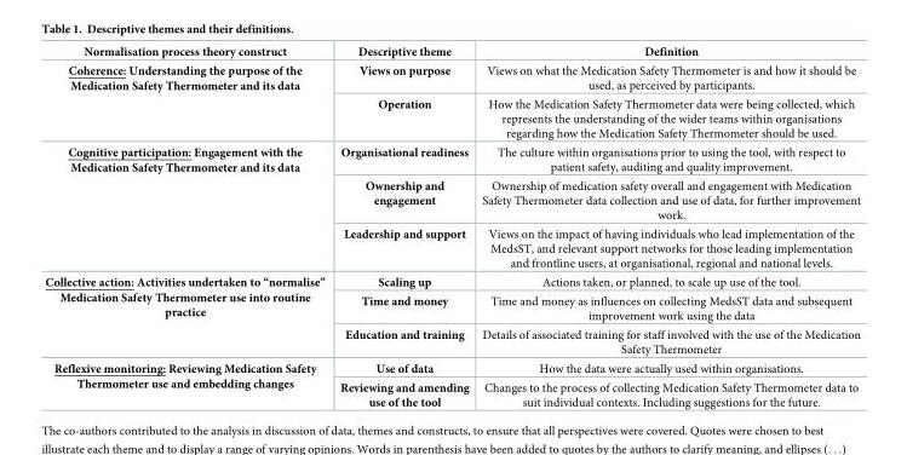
<table><thead><tr><td>Normalisation process theory construct</td><td>Descriptive theme</td><td>Definition</td></tr></thead><tbody><tr><td rowspan="2">Coherence: Understanding the purpose of the Medication Safety Thermometer and its data</td><td>Views on purpose</td><td>Views on what the Medication Safety Thermometer is and how it should be used, as perceived by participants.</td></tr><tr><td>Operation</td><td>How the Medication Safety Thermometer data were being collected, which represents the understanding of the wider teams within organisations regarding how the Medication Safety Thermometer should be used.</td></tr><tr><td rowspan="3">Cognitive participation: Engagement with the Medication Safety Thermometer and its data</td><td>Organisational readiness</td><td>The culture within organisations prior to using the tool, with respect to patient safety, auditing and quality improvement.</td></tr><tr><td>Ownership and engagement</td><td>Ownership of medication safety overall and engagement with Medication Safety Thermometer data collection and use of data, for further improvement work.</td></tr><tr><td>Leadership and support</td><td>Views on the impact of having individuals who lead implementation of the MedsST, and relevant support networks for those leading implementation and frontline users, at organisational, regional and national levels.</td></tr><tr><td rowspan="3">Collective action: Activities undertaken to “normalise” Medication Safety Thermometer use into routine practice</td><td>Scaling up</td><td>Actions taken, or planned, to scale up use of the tool.</td></tr><tr><td>Time and money</td><td>Time and money as influences on collecting MedsST data and subsequent improvement work using the data</td></tr><tr><td>Education and training</td><td>Details of associated training for staff involved with the use of the Medication Safety Thermometer</td></tr><tr><td rowspan="2">Reflexive monitoring: Reviewing Medication Safety Thermometer use and embedding changes</td><td>Use of data</td><td>How the data were actually used within organisations.</td></tr><tr><td>Reviewing and amending use of the tool</td><td>Changes to the process of collecting Medication Safety Thermometer data to suit individual contexts. Including suggestions for the future.</td></tr></tbody></table>